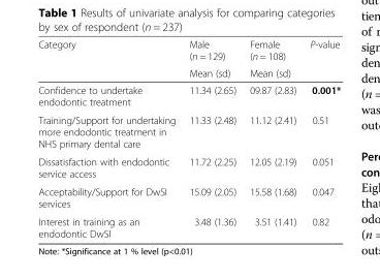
<table><thead><tr><td rowspan="2">Category</td><td rowspan="2">Male (n = 129) Mean (sd)</td><td rowspan="2">Female (n = 108) Mean (sd)</td><td rowspan="2">P-value</td></tr><tr></tr></thead><tbody><tr><td>Confidence to undertake endodontic treatment</td><td>11.34 (2.65)</td><td>09.87 (2.83)</td><td>0.001*</td></tr><tr><td>Training/Support for undertaking more endodontic treatment in NHS primary dental care</td><td>11.33 (2.48)</td><td>11.12 (2.41)</td><td>0.51</td></tr><tr><td>Dissatisfaction with endodontic service access</td><td>11.72 (2.25)</td><td>12.05 (2.19)</td><td>0.051</td></tr><tr><td>Acceptability/Support for DwSI services</td><td>15.09 (2.05)</td><td>15.58 (1.68)</td><td>0.047</td></tr><tr><td>Interest in training as an endodontic DwSI</td><td>3.48 (1.36)</td><td>3.51 (1.41)</td><td>0.82</td></tr></tbody></table>